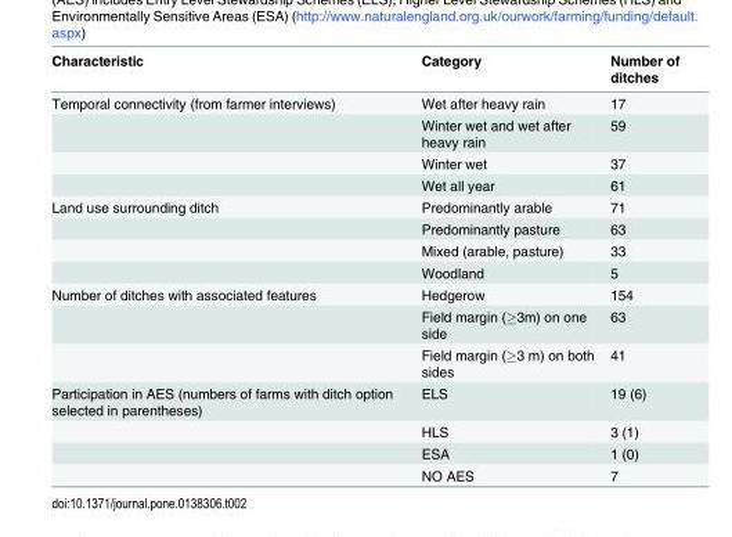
<table><thead><tr><td>Characteristic</td><td>Category</td><td>Number of ditches</td></tr></thead><tbody><tr><td rowspan="4">Temporal connectivity (from farmer interviews)</td><td>Wet after heavy rain</td><td>17</td></tr><tr><td>Winter wet and wet after heavy rain</td><td>59</td></tr><tr><td>Winter wet</td><td>37</td></tr><tr><td>Wet all year</td><td>61</td></tr><tr><td rowspan="4">Land use surrounding ditch</td><td>Predominantly arable</td><td>71</td></tr><tr><td>Predominantly pasture</td><td>63</td></tr><tr><td>Mixed (arable, pasture)</td><td>33</td></tr><tr><td>Woodland</td><td>5</td></tr><tr><td rowspan="3">Number of ditches with associated features</td><td>Hedgerow</td><td>154</td></tr><tr><td>Field margin (≥3m) on one side</td><td>63</td></tr><tr><td>Field margin (≥3 m) on both sides</td><td>41</td></tr><tr><td rowspan="4">Participation in AES (numbers of farms with ditch option selected in parentheses)</td><td>ELS</td><td>19 (6)</td></tr><tr><td>HLS</td><td>3 (1)</td></tr><tr><td>ESA</td><td>1 (0)</td></tr><tr><td>NO AES</td><td>7</td></tr></tbody></table>